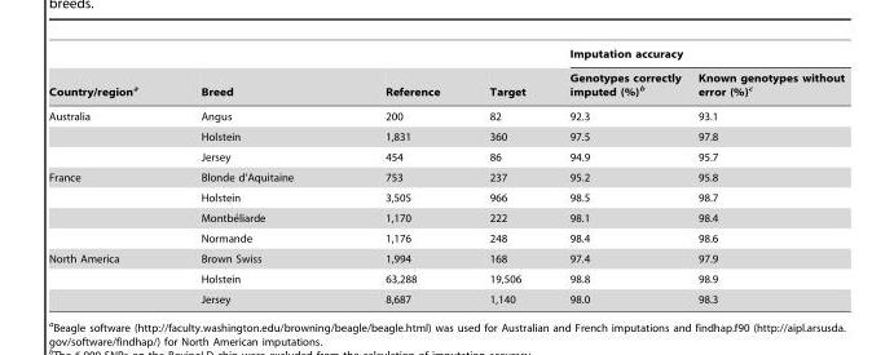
<table><thead><tr><td rowspan="2">Country/region<sup>a</sup></td><td rowspan="2">Breed</td><td rowspan="2">Reference</td><td rowspan="2">Target</td><td colspan="2">Imputation accuracy</td></tr><tr><td>Genotypes correctly imputed (%)<sup>b</sup></td><td>Known genotypes without error (%)<sup>c</sup></td></tr></thead><tbody><tr><td rowspan="3">Australia</td><td>Angus</td><td>200</td><td>82</td><td>92.3</td><td>93.1</td></tr><tr><td>Holstein</td><td>1,831</td><td>360</td><td>97.5</td><td>97.8</td></tr><tr><td>Jersey</td><td>454</td><td>86</td><td>94.9</td><td>95.7</td></tr><tr><td rowspan="4">France</td><td>Blonde d’Aquitaine</td><td>753</td><td>237</td><td>95.2</td><td>95.8</td></tr><tr><td>Holstein</td><td>3,505</td><td>966</td><td>98.5</td><td>98.7</td></tr><tr><td>Montbe´liarde</td><td>1,170</td><td>222</td><td>98.1</td><td>98.4</td></tr><tr><td>Normande</td><td>1,176</td><td>248</td><td>98.4</td><td>98.6</td></tr><tr><td rowspan="3">North America</td><td>Brown Swiss</td><td>1,994</td><td>168</td><td>97.4</td><td>97.9</td></tr><tr><td>Holstein</td><td>63,288</td><td>19,506</td><td>98.8</td><td>98.9</td></tr><tr><td>Jersey</td><td>8,687</td><td>1,140</td><td>98.0</td><td>98.3</td></tr></tbody></table>